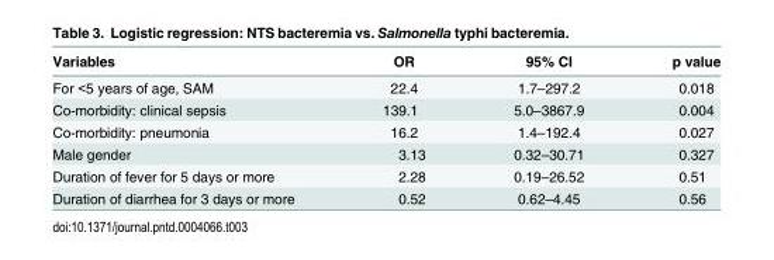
<table><thead><tr><td>Variables</td><td>OR</td><td>95% CI</td><td>p value</td></tr></thead><tbody><tr><td>For &lt;5 years of age, SAM</td><td>22.4</td><td>1.7–297.2</td><td>0.018</td></tr><tr><td>Co-morbidity: clinical sepsis</td><td>139.1</td><td>5.0–3867.9</td><td>0.004</td></tr><tr><td>Co-morbidity: pneumonia</td><td>16.2</td><td>1.4–192.4</td><td>0.027</td></tr><tr><td>Male gender</td><td>3.13</td><td>0.32–30.71</td><td>0.327</td></tr><tr><td>Duration of fever for 5 days or more</td><td>2.28</td><td>0.19–26.52</td><td>0.51</td></tr><tr><td>Duration of diarrhea for 3 days or more</td><td>0.52</td><td>0.62–4.45</td><td>0.56</td></tr></tbody></table>